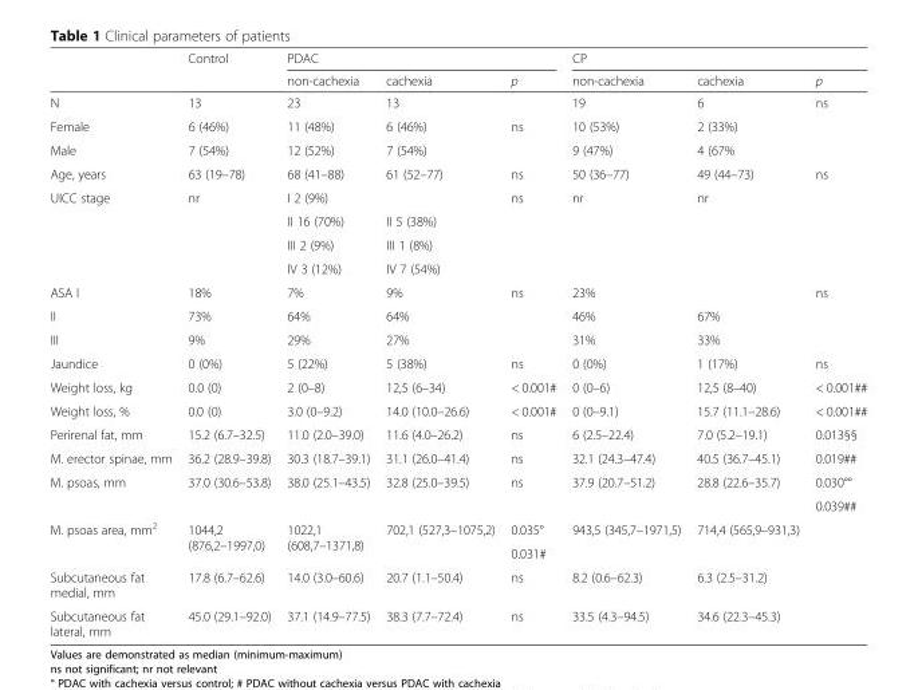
<table><thead><tr><td rowspan="2"></td><td rowspan="2">Control</td><td colspan="3">PDAC</td><td colspan="3">CP</td></tr><tr><td>non-cachexia</td><td>cachexia</td><td>p</td><td>non-cachexia</td><td>cachexia</td><td>p</td></tr></thead><tbody><tr><td>N</td><td>13</td><td>23</td><td>13</td><td></td><td>19</td><td>6</td><td rowspan="3">ns</td></tr><tr><td>Female</td><td>6 (46%)</td><td>11 (48%)</td><td>6 (46%)</td><td>ns</td><td>10 (53%)</td><td>2 (33%)</td></tr><tr><td>Male</td><td>7 (54%)</td><td>12 (52%)</td><td>7 (54%)</td><td></td><td>9 (47%)</td><td>4 (67%</td></tr><tr><td>Age, years</td><td>63 (19–78)</td><td>68 (41–88)</td><td>61 (52–77)</td><td>ns</td><td>50 (36–77)</td><td>49 (44–73)</td><td>ns</td></tr><tr><td rowspan="4">UICC stage</td><td rowspan="4">nr</td><td>I 2 (9%)</td><td></td><td rowspan="4">ns</td><td rowspan="4">nr</td><td rowspan="4">nr</td><td rowspan="4"></td></tr><tr><td>II 16 (70%)</td><td>II 5 (38%)</td></tr><tr><td>III 2 (9%)</td><td>III 1 (8%)</td></tr><tr><td>IV 3 (12%)</td><td>IV 7 (54%)</td></tr><tr><td>ASA I</td><td>18%</td><td>7%</td><td>9%</td><td>ns</td><td>23%</td><td></td><td rowspan="3">ns</td></tr><tr><td>II</td><td>73%</td><td>64%</td><td>64%</td><td></td><td>46%</td><td>67%</td></tr><tr><td>III</td><td>9%</td><td>29%</td><td>27%</td><td></td><td>31%</td><td>33%</td></tr><tr><td>Jaundice</td><td>0 (0%)</td><td>5 (22%)</td><td>5 (38%)</td><td>ns</td><td>0 (0%)</td><td>1 (17%)</td><td>ns</td></tr><tr><td>Weight loss, kg</td><td>0.0 (0)</td><td>2 (0–8)</td><td>12,5 (6–34)</td><td>&lt; 0.001#</td><td>0 (0–6)</td><td>12,5 (8–40)</td><td>&lt; 0.001##</td></tr><tr><td>Weight loss, %</td><td>0.0 (0)</td><td>3.0 (0–9.2)</td><td>14.0 (10.0–26.6)</td><td>&lt; 0.001#</td><td>0 (0–9.1)</td><td>15.7 (11.1–28.6)</td><td>&lt; 0.001##</td></tr><tr><td>Perirenal fat, mm</td><td>15.2 (6.7–32.5)</td><td>11.0 (2.0–39.0)</td><td>11.6 (4.0–26.2)</td><td>ns</td><td>6 (2.5–22.4)</td><td>7.0 (5.2–19.1)</td><td>0.013§§</td></tr><tr><td>M. erector spinae, mm</td><td>36.2 (28.9–39.8)</td><td>30.3 (18.7–39.1)</td><td>31.1 (26.0–41.4)</td><td>ns</td><td>32.1 (24.3–47.4)</td><td>40.5 (36.7–45.1)</td><td>0.019##</td></tr><tr><td rowspan="2">M. psoas, mm</td><td rowspan="2">37.0 (30.6–53.8)</td><td rowspan="2">38.0 (25.1–43.5)</td><td rowspan="2">32.8 (25.0–39.5)</td><td rowspan="2">ns</td><td rowspan="2">37.9 (20.7–51.2)</td><td rowspan="2">28.8 (22.6–35.7)</td><td>0.030°°</td></tr><tr><td>0.039##</td></tr><tr><td rowspan="2">M. psoas area, mm<sup>2</sup></td><td rowspan="2">1044,2 (876,2–1997,0)</td><td rowspan="2">1022,1 (608,7–1371,8)</td><td rowspan="2">702,1 (527,3–1075,2)</td><td>0.035°</td><td rowspan="2">943,5 (345,7–1971,5)</td><td rowspan="2">714,4 (565,9–931,3)</td><td rowspan="2"></td></tr><tr><td>0.031#</td></tr><tr><td>Subcutaneous fat medial, mm</td><td>17.8 (6.7–62.6)</td><td>14.0 (3.0–60.6)</td><td>20.7 (1.1–50.4)</td><td>ns</td><td>8.2 (0.6–62.3)</td><td>6.3 (2.5–31.2)</td><td></td></tr><tr><td>Subcutaneous fat lateral, mm</td><td>45.0 (29.1–92.0)</td><td>37.1 (14.9–77.5)</td><td>38.3 (7.7–72.4)</td><td>ns</td><td>33.5 (4.3–94.5)</td><td>34.6 (22.3–45.3)</td><td></td></tr></tbody></table>